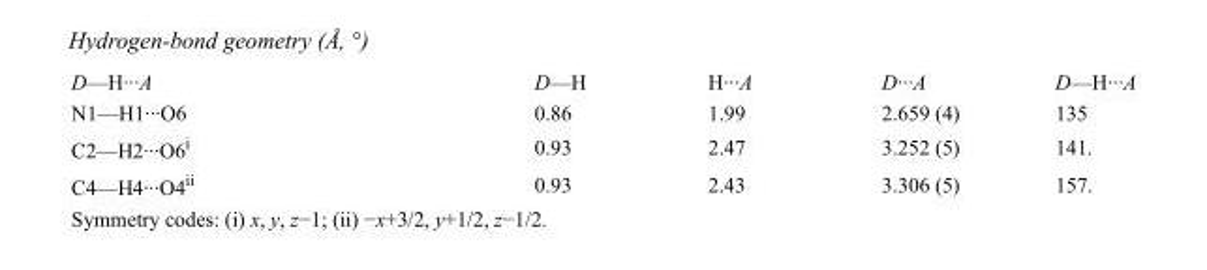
<table><tbody><tr><td>D—H···A</td><td>D—H</td><td>H···A</td><td>D···A</td><td>D—H···A</td></tr><tr><td>N1—H1···O6</td><td>0.86</td><td>1.99</td><td>2.659 (4)</td><td>135</td></tr><tr><td>C2—H2···O6<sup>i</sup></td><td>0.93</td><td>2.47</td><td>3.252 (5)</td><td>141.</td></tr><tr><td>C4—H4···O4<sup>ii</sup></td><td>0.93</td><td>2.43</td><td>3.306 (5)</td><td>157.</td></tr></tbody></table>